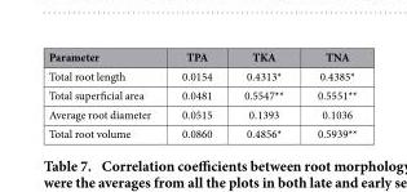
<table><thead><tr><td>Parameter</td><td>TPA</td><td>TKA</td><td>TNA</td></tr></thead><tbody><tr><td>Total root length</td><td>0.0154</td><td>0.4313*</td><td>0.4385*</td></tr><tr><td>Total superficial area</td><td>0.0481</td><td>0.5547**</td><td>0.5551**</td></tr><tr><td>Average root diameter</td><td>0.0515</td><td>0.1393</td><td>0.1036</td></tr><tr><td>Total root volume</td><td>0.0860</td><td>0.4856*</td><td>0.5939**</td></tr></tbody></table>